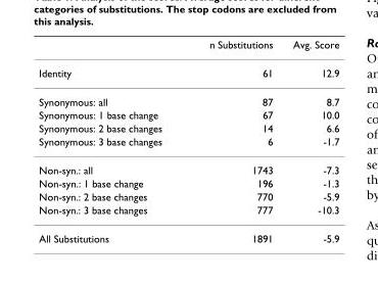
<table><thead><tr><td></td><td>n Substitutions</td><td>Avg. Score</td></tr></thead><tbody><tr><td>Identity</td><td>61</td><td>12.9</td></tr><tr><td>Synonymous: all</td><td>87</td><td>8.7</td></tr><tr><td>Synonymous: 1 base change</td><td>67</td><td>10.0</td></tr><tr><td>Synonymous: 2 base changes</td><td>14</td><td>6.6</td></tr><tr><td>Synonymous: 3 base changes</td><td>6</td><td>-1.7</td></tr><tr><td>Non-syn.: all</td><td>1743</td><td>-7.3</td></tr><tr><td>Non-syn.: 1 base change</td><td>196</td><td>-1.3</td></tr><tr><td>Non-syn.: 2 base changes</td><td>770</td><td>-5.9</td></tr><tr><td>Non-syn.: 3 base changes</td><td>777</td><td>-10.3</td></tr><tr><td>All Substitutions</td><td>1891</td><td>-5.9</td></tr></tbody></table>